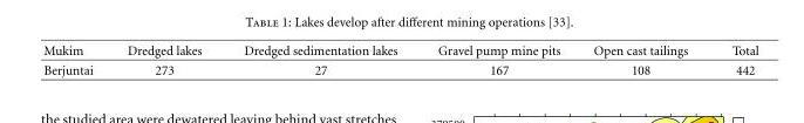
<table><thead><tr><td>Mukim</td><td>Dredged lakes</td><td>Dredged sedimentation lakes</td><td>Gravel pump mine pits</td><td>Open cast tailings</td><td>Total</td></tr></thead><tbody><tr><td>Berjuntai</td><td>273</td><td>27</td><td>167</td><td>108</td><td>442</td></tr></tbody></table>